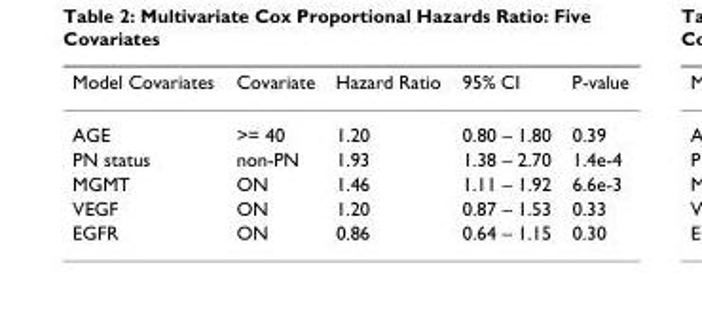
<table><thead><tr><td>Model Covariates</td><td>Covariate</td><td>Hazard Ratio</td><td>95% CI</td><td>P-value</td></tr></thead><tbody><tr><td>AGE</td><td>&gt;= 40</td><td>1.20</td><td>0.80 – 1.80</td><td>0.39</td></tr><tr><td>PN status</td><td>non-PN</td><td>1.93</td><td>1.38 – 2.70</td><td>1.4e-4</td></tr><tr><td>MGMT</td><td>ON</td><td>1.46</td><td>1.11 – 1.92</td><td>6.6e-3</td></tr><tr><td>VEGF</td><td>ON</td><td>1.20</td><td>0.87 – 1.53</td><td>0.33</td></tr><tr><td>EGFR</td><td>ON</td><td>0.86</td><td>0.64 – 1.15</td><td>0.30</td></tr></tbody></table>